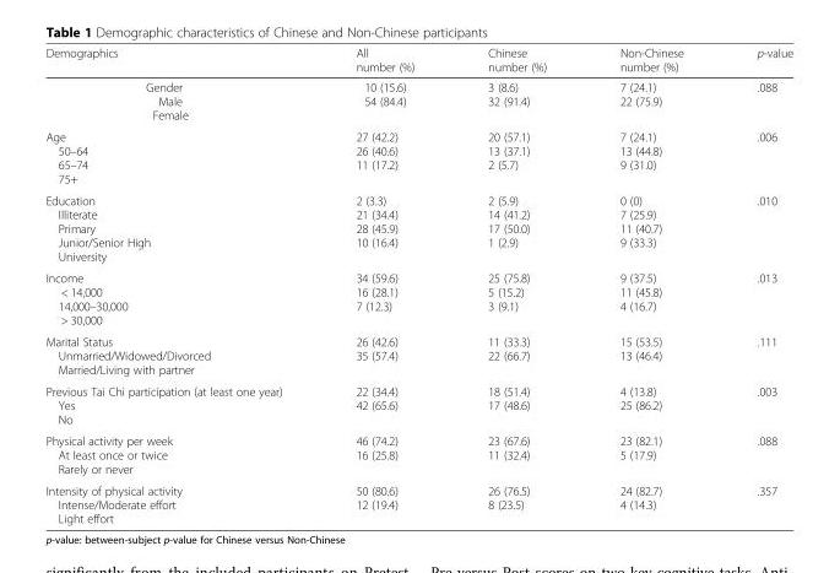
<table><thead><tr><td>Demographics</td><td>All number (%)</td><td>Chinese number (%)</td><td>Non-Chinese number (%)</td><td>p-value</td></tr></thead><tbody><tr><td>Gender Male Female</td><td>10 (15.6) 54 (84.4)</td><td>3 (8.6) 32 (91.4)</td><td>7 (24.1) 22 (75.9)</td><td>.088</td></tr><tr><td>Age 50–64 65–74 75+</td><td>27 (42.2) 26 (40.6) 11 (17.2)</td><td>20 (57.1) 13 (37.1) 2 (5.7)</td><td>7 (24.1) 13 (44.8) 9 (31.0)</td><td>.006</td></tr><tr><td>Education Illiterate Primary Junior/Senior High University</td><td>2 (3.3) 21 (34.4) 28 (45.9) 10 (16.4)</td><td>2 (5.9) 14 (41.2) 17 (50.0) 1 (2.9)</td><td>0 (0) 7 (25.9) 11 (40.7) 9 (33.3)</td><td>.010</td></tr><tr><td>Income &lt; 14,000 14,000–30,000 &gt; 30,000</td><td>34 (59.6) 16 (28.1) 7 (12.3)</td><td>25 (75.8) 5 (15.2) 3 (9.1)</td><td>9 (37.5) 11 (45.8) 4 (16.7)</td><td>.013</td></tr><tr><td>Marital Status Unmarried/Widowed/Divorced Married/Living with partner</td><td>26 (42.6) 35 (57.4)</td><td>11 (33.3) 22 (66.7)</td><td>15 (53.5) 13 (46.4)</td><td>.111</td></tr><tr><td>Previous Tai Chi participation (at least one year) Yes No</td><td>22 (34.4) 42 (65.6)</td><td>18 (51.4) 17 (48.6)</td><td>4 (13.8) 25 (86.2)</td><td>.003</td></tr><tr><td>Physical activity per week At least once or twice Rarely or never</td><td>46 (74.2) 16 (25.8)</td><td>23 (67.6) 11 (32.4)</td><td>23 (82.1) 5 (17.9)</td><td>.088</td></tr><tr><td>Intensity of physical activity Intense/Moderate effort Light effort</td><td>50 (80.6) 12 (19.4)</td><td>26 (76.5) 8 (23.5)</td><td>24 (82.7) 4 (14.3)</td><td>.357</td></tr></tbody></table>